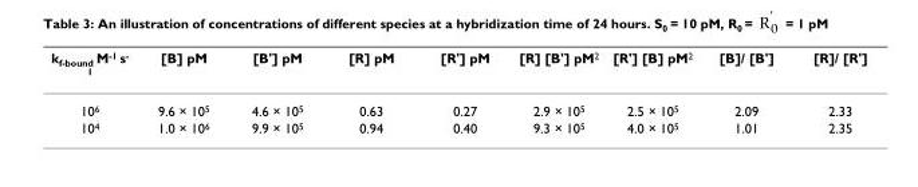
<table><thead><tr><td>k<sub>f-bound</sub> M<sup>-1</sup> s<sup>- 1</sup></td><td>[B] pM</td><td>[B&#x27;] pM</td><td>[R] pM</td><td>[R&#x27;] pM</td><td>[R] [B&#x27;] pM<sup>2</sup></td><td>[R&#x27;] [B] pM<sup>2</sup></td><td>[B]/ [B&#x27;]</td><td>[R]/ [R&#x27;]</td></tr></thead><tbody><tr><td>10<sup>6</sup></td><td>9.6 × 10<sup>5</sup></td><td>4.6 × 10<sup>5</sup></td><td>0.63</td><td>0.27</td><td>2.9 × 10<sup>5</sup></td><td>2.5 × 10<sup>5</sup></td><td>2.09</td><td>2.33</td></tr><tr><td>10<sup>4</sup></td><td>1.0 × 10<sup>6</sup></td><td>9.9 × 10<sup>5</sup></td><td>0.94</td><td>0.40</td><td>9.3 × 10<sup>5</sup></td><td>4.0 × 10<sup>5</sup></td><td>1.01</td><td>2.35</td></tr></tbody></table>